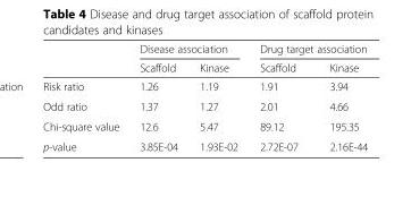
<table><thead><tr><td rowspan="2"></td><td colspan="2">Disease association</td><td colspan="2">Drug target association</td></tr><tr><td>Scaffold</td><td>Kinase</td><td>Scaffold</td><td>Kinase</td></tr></thead><tbody><tr><td>Risk ratio</td><td>1.26</td><td>1.19</td><td>1.91</td><td>3.94</td></tr><tr><td>Odd ratio</td><td>1.37</td><td>1.27</td><td>2.01</td><td>4.66</td></tr><tr><td>Chi-square value</td><td>12.6</td><td>5.47</td><td>89.12</td><td>195.35</td></tr><tr><td>p-value</td><td>3.85E-04</td><td>1.93E-02</td><td>2.72E-07</td><td>2.16E-44</td></tr></tbody></table>